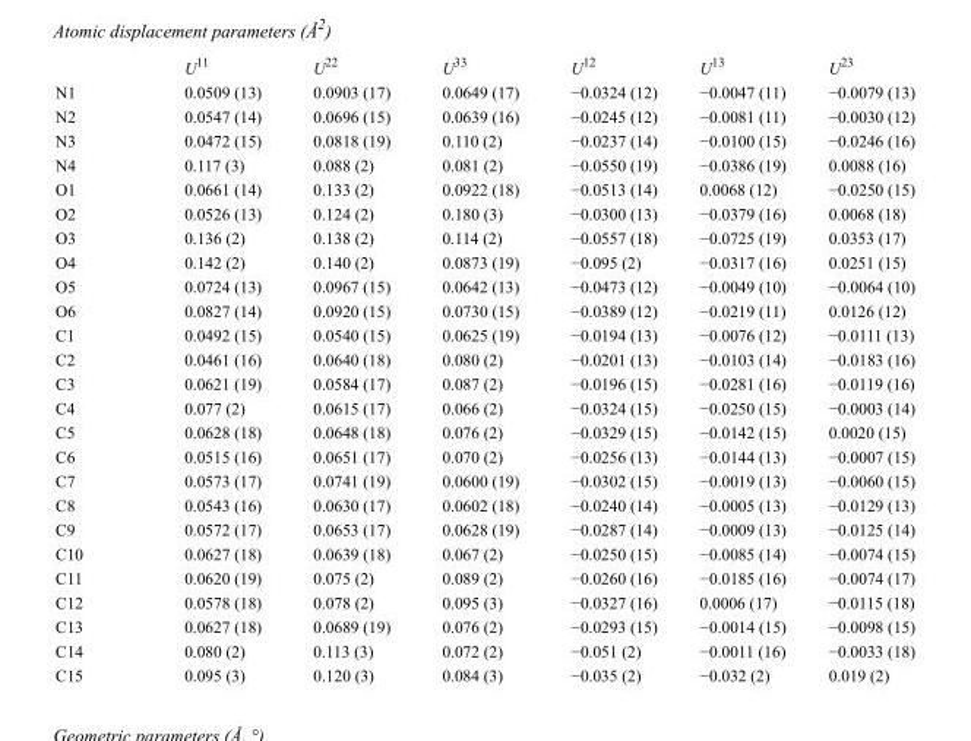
<table><thead><tr><td></td><td>U<sup>11</sup></td><td>U<sup>22</sup></td><td>U<sup>33</sup></td><td>U<sup>12</sup></td><td>U<sup>13</sup></td><td>U<sup>23</sup></td></tr></thead><tbody><tr><td>N1</td><td>0.0509 (13)</td><td>0.0903 (17)</td><td>0.0649 (17)</td><td>−0.0324 (12)</td><td>−0.0047 (11)</td><td>−0.0079 (13)</td></tr><tr><td>N2</td><td>0.0547 (14)</td><td>0.0696 (15)</td><td>0.0639 (16)</td><td>−0.0245 (12)</td><td>−0.0081 (11)</td><td>−0.0030 (12)</td></tr><tr><td>N3</td><td>0.0472 (15)</td><td>0.0818 (19)</td><td>0.110 (2)</td><td>−0.0237 (14)</td><td>−0.0100 (15)</td><td>−0.0246 (16)</td></tr><tr><td>N4</td><td>0.117 (3)</td><td>0.088 (2)</td><td>0.081 (2)</td><td>−0.0550 (19)</td><td>−0.0386 (19)</td><td>0.0088 (16)</td></tr><tr><td>O1</td><td>0.0661 (14)</td><td>0.133 (2)</td><td>0.0922 (18)</td><td>−0.0513 (14)</td><td>0.0068 (12)</td><td>−0.0250 (15)</td></tr><tr><td>O2</td><td>0.0526 (13)</td><td>0.124 (2)</td><td>0.180 (3)</td><td>−0.0300 (13)</td><td>−0.0379 (16)</td><td>0.0068 (18)</td></tr><tr><td>O3</td><td>0.136 (2)</td><td>0.138 (2)</td><td>0.114 (2)</td><td>−0.0557 (18)</td><td>−0.0725 (19)</td><td>0.0353 (17)</td></tr><tr><td>O4</td><td>0.142 (2)</td><td>0.140 (2)</td><td>0.0873 (19)</td><td>−0.095 (2)</td><td>−0.0317 (16)</td><td>0.0251 (15)</td></tr><tr><td>O5</td><td>0.0724 (13)</td><td>0.0967 (15)</td><td>0.0642 (13)</td><td>−0.0473 (12)</td><td>−0.0049 (10)</td><td>−0.0064 (10)</td></tr><tr><td>O6</td><td>0.0827 (14)</td><td>0.0920 (15)</td><td>0.0730 (15)</td><td>−0.0389 (12)</td><td>−0.0219 (11)</td><td>0.0126 (12)</td></tr><tr><td>C1</td><td>0.0492 (15)</td><td>0.0540 (15)</td><td>0.0625 (19)</td><td>−0.0194 (13)</td><td>−0.0076 (12)</td><td>−0.0111 (13)</td></tr><tr><td>C2</td><td>0.0461 (16)</td><td>0.0640 (18)</td><td>0.080 (2)</td><td>−0.0201 (13)</td><td>−0.0103 (14)</td><td>−0.0183 (16)</td></tr><tr><td>C3</td><td>0.0621 (19)</td><td>0.0584 (17)</td><td>0.087 (2)</td><td>−0.0196 (15)</td><td>−0.0281 (16)</td><td>−0.0119 (16)</td></tr><tr><td>C4</td><td>0.077 (2)</td><td>0.0615 (17)</td><td>0.066 (2)</td><td>−0.0324 (15)</td><td>−0.0250 (15)</td><td>−0.0003 (14)</td></tr><tr><td>C5</td><td>0.0628 (18)</td><td>0.0648 (18)</td><td>0.076 (2)</td><td>−0.0329 (15)</td><td>−0.0142 (15)</td><td>0.0020 (15)</td></tr><tr><td>C6</td><td>0.0515 (16)</td><td>0.0651 (17)</td><td>0.070 (2)</td><td>−0.0256 (13)</td><td>−0.0144 (13)</td><td>−0.0007 (15)</td></tr><tr><td>C7</td><td>0.0573 (17)</td><td>0.0741 (19)</td><td>0.0600 (19)</td><td>−0.0302 (15)</td><td>−0.0019 (13)</td><td>−0.0060 (15)</td></tr><tr><td>C8</td><td>0.0543 (16)</td><td>0.0630 (17)</td><td>0.0602 (18)</td><td>−0.0240 (14)</td><td>−0.0005 (13)</td><td>−0.0129 (13)</td></tr><tr><td>C9</td><td>0.0572 (17)</td><td>0.0653 (17)</td><td>0.0628 (19)</td><td>−0.0287 (14)</td><td>−0.0009 (13)</td><td>−0.0125 (14)</td></tr><tr><td>C10</td><td>0.0627 (18)</td><td>0.0639 (18)</td><td>0.067 (2)</td><td>−0.0250 (15)</td><td>−0.0085 (14)</td><td>−0.0074 (15)</td></tr><tr><td>C11</td><td>0.0620 (19)</td><td>0.075 (2)</td><td>0.089 (2)</td><td>−0.0260 (16)</td><td>−0.0185 (16)</td><td>−0.0074 (17)</td></tr><tr><td>C12</td><td>0.0578 (18)</td><td>0.078 (2)</td><td>0.095 (3)</td><td>−0.0327 (16)</td><td>0.0006 (17)</td><td>−0.0115 (18)</td></tr><tr><td>C13</td><td>0.0627 (18)</td><td>0.0689 (19)</td><td>0.076 (2)</td><td>−0.0293 (15)</td><td>−0.0014 (15)</td><td>−0.0098 (15)</td></tr><tr><td>C14</td><td>0.080 (2)</td><td>0.113 (3)</td><td>0.072 (2)</td><td>−0.051 (2)</td><td>−0.0011 (16)</td><td>−0.0033 (18)</td></tr><tr><td>C15</td><td>0.095 (3)</td><td>0.120 (3)</td><td>0.084 (3)</td><td>−0.035 (2)</td><td>−0.032 (2)</td><td>0.019 (2)</td></tr></tbody></table>